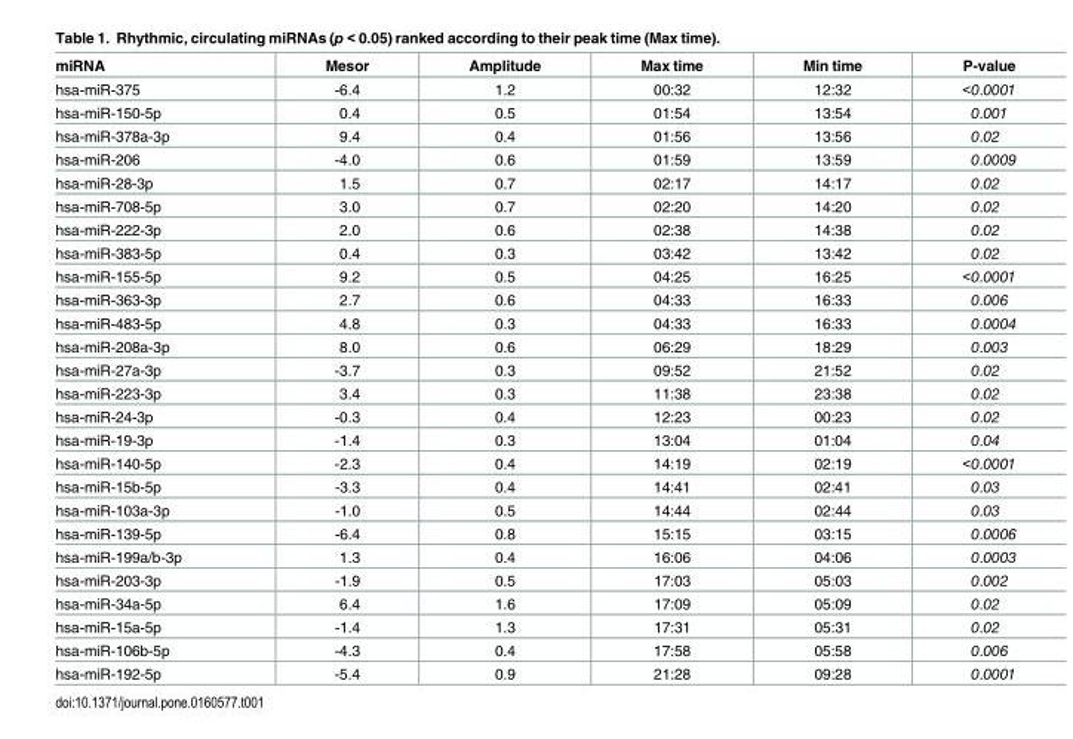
<table><thead><tr><td>miRNA</td><td>Mesor</td><td>Amplitude</td><td>Max time</td><td>Min time</td><td>P-value</td></tr></thead><tbody><tr><td>hsa-miR-375</td><td>-6.4</td><td>1.2</td><td>00:32</td><td>12:32</td><td>&lt;0.0001</td></tr><tr><td>hsa-miR-150-5p</td><td>0.4</td><td>0.5</td><td>01:54</td><td>13:54</td><td>0.001</td></tr><tr><td>hsa-miR-378a-3p</td><td>9.4</td><td>0.4</td><td>01:56</td><td>13:56</td><td>0.02</td></tr><tr><td>hsa-miR-206</td><td>-4.0</td><td>0.6</td><td>01:59</td><td>13:59</td><td>0.0009</td></tr><tr><td>hsa-miR-28-3p</td><td>1.5</td><td>0.7</td><td>02:17</td><td>14:17</td><td>0.02</td></tr><tr><td>hsa-miR-708-5p</td><td>3.0</td><td>0.7</td><td>02:20</td><td>14:20</td><td>0.02</td></tr><tr><td>hsa-miR-222-3p</td><td>2.0</td><td>0.6</td><td>02:38</td><td>14:38</td><td>0.02</td></tr><tr><td>hsa-miR-383-5p</td><td>0.4</td><td>0.3</td><td>03:42</td><td>13:42</td><td>0.02</td></tr><tr><td>hsa-miR-155-5p</td><td>9.2</td><td>0.5</td><td>04:25</td><td>16:25</td><td>&lt;0.0001</td></tr><tr><td>hsa-miR-363-3p</td><td>2.7</td><td>0.6</td><td>04:33</td><td>16:33</td><td>0.006</td></tr><tr><td>hsa-miR-483-5p</td><td>4.8</td><td>0.3</td><td>04:33</td><td>16:33</td><td>0.0004</td></tr><tr><td>hsa-miR-208a-3p</td><td>8.0</td><td>0.6</td><td>06:29</td><td>18:29</td><td>0.003</td></tr><tr><td>hsa-miR-27a-3p</td><td>-3.7</td><td>0.3</td><td>09:52</td><td>21:52</td><td>0.02</td></tr><tr><td>hsa-miR-223-3p</td><td>3.4</td><td>0.3</td><td>11:38</td><td>23:38</td><td>0.02</td></tr><tr><td>hsa-miR-24-3p</td><td>-0.3</td><td>0.4</td><td>12:23</td><td>00:23</td><td>0.02</td></tr><tr><td>hsa-miR-19-3p</td><td>-1.4</td><td>0.3</td><td>13:04</td><td>01:04</td><td>0.04</td></tr><tr><td>hsa-miR-140-5p</td><td>-2.3</td><td>0.4</td><td>14:19</td><td>02:19</td><td>&lt;0.0001</td></tr><tr><td>hsa-miR-15b-5p</td><td>-3.3</td><td>0.4</td><td>14:41</td><td>02:41</td><td>0.03</td></tr><tr><td>hsa-miR-103a-3p</td><td>-1.0</td><td>0.5</td><td>14:44</td><td>02:44</td><td>0.03</td></tr><tr><td>hsa-miR-139-5p</td><td>-6.4</td><td>0.8</td><td>15:15</td><td>03:15</td><td>0.0006</td></tr><tr><td>hsa-miR-199a/b-3p</td><td>1.3</td><td>0.4</td><td>16:06</td><td>04:06</td><td>0.0003</td></tr><tr><td>hsa-miR-203-3p</td><td>-1.9</td><td>0.5</td><td>17:03</td><td>05:03</td><td>0.002</td></tr><tr><td>hsa-miR-34a-5p</td><td>6.4</td><td>1.6</td><td>17:09</td><td>05:09</td><td>0.02</td></tr><tr><td>hsa-miR-15a-5p</td><td>-1.4</td><td>1.3</td><td>17:31</td><td>05:31</td><td>0.02</td></tr><tr><td>hsa-miR-106b-5p</td><td>-4.3</td><td>0.4</td><td>17:58</td><td>05:58</td><td>0.006</td></tr><tr><td>hsa-miR-192-5p</td><td>-5.4</td><td>0.9</td><td>21:28</td><td>09:28</td><td>0.0001</td></tr></tbody></table>